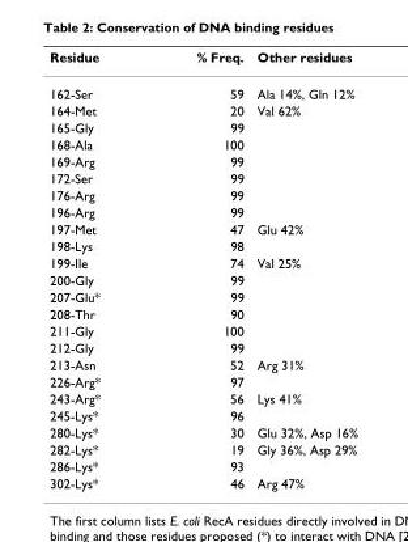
<table><thead><tr><td>Residue</td><td>% Freq.</td><td>Other residues</td></tr></thead><tbody><tr><td>162-Ser</td><td>59</td><td>Ala 14%, Gln 12%</td></tr><tr><td>164-Met</td><td>20</td><td>Val 62%</td></tr><tr><td>165-Gly</td><td>99</td><td></td></tr><tr><td>168-Ala</td><td>100</td><td></td></tr><tr><td>169-Arg</td><td>99</td><td></td></tr><tr><td>172-Ser</td><td>99</td><td></td></tr><tr><td>176-Arg</td><td>99</td><td></td></tr><tr><td>196-Arg</td><td>99</td><td></td></tr><tr><td>197-Met</td><td>47</td><td>Glu 42%</td></tr><tr><td>198-Lys</td><td>98</td><td></td></tr><tr><td>199-Ile</td><td>74</td><td>Val 25%</td></tr><tr><td>200-Gly</td><td>99</td><td></td></tr><tr><td>207-Glu*</td><td>99</td><td></td></tr><tr><td>208-Thr</td><td>90</td><td></td></tr><tr><td>211-Gly</td><td>100</td><td></td></tr><tr><td>212-Gly</td><td>99</td><td></td></tr><tr><td>213-Asn</td><td>52</td><td>Arg 31%</td></tr><tr><td>226-Arg*</td><td>97</td><td></td></tr><tr><td>243-Arg*</td><td>56</td><td>Lys 41%</td></tr><tr><td>245-Lys*</td><td>96</td><td></td></tr><tr><td>280-Lys*</td><td>30</td><td>Glu 32%, Asp 16%</td></tr><tr><td>282-Lys*</td><td>19</td><td>Gly 36%, Asp 29%</td></tr><tr><td>286-Lys*</td><td>93</td><td></td></tr><tr><td>302-Lys*</td><td>46</td><td>Arg 47%</td></tr></tbody></table>